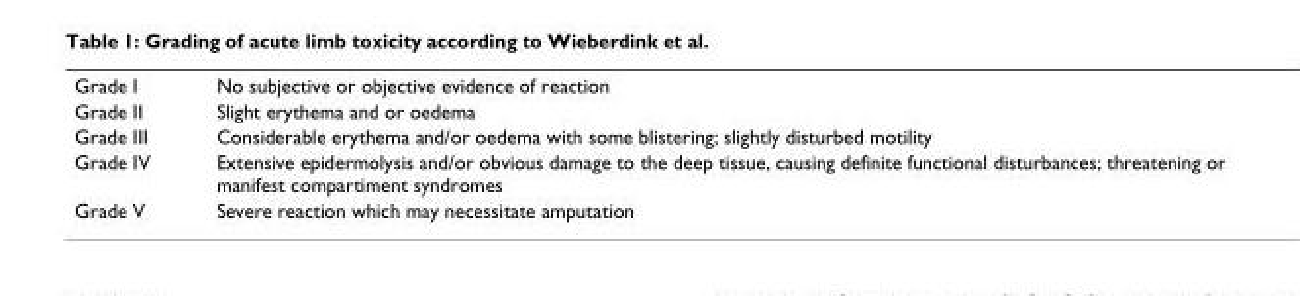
<table><tbody><tr><td>Grade I</td><td>No subjective or objective evidence of reaction</td></tr><tr><td>Grade II</td><td>Slight erythema and or oedema</td></tr><tr><td>Grade III</td><td>Considerable erythema and/or oedema with some blistering; slightly disturbed motility</td></tr><tr><td>Grade IV</td><td>Extensive epidermolysis and/or obvious damage to the deep tissue, causing definite functional disturbances; threatening or manifest compartiment syndromes</td></tr><tr><td>Grade V</td><td>Severe reaction which may necessitate amputation</td></tr></tbody></table>